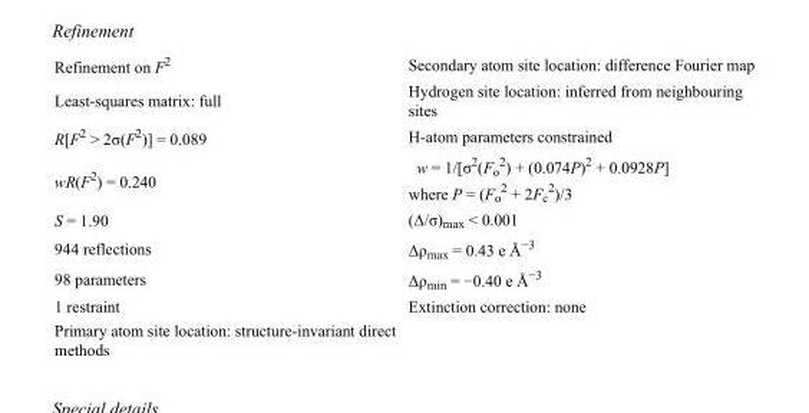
<table><tbody><tr><td>Refinement on F<sup>2</sup></td><td>Secondary atom site location: difference Fourier map</td></tr><tr><td>Least-squares matrix: full</td><td>Hydrogen site location: inferred from neighbouring sites</td></tr><tr><td>R[F<sup>2</sup> &gt; 2σ(F<sup>2</sup>)] = 0.089</td><td>H-atom parameters constrained</td></tr><tr><td>wR(F<sup>2</sup>) = 0.240</td><td>w = 1/[σ<sup>2</sup>(F<sub>o</sub> <sup>2</sup>) + (0.074P)<sup>2</sup> + 0.0928P] where P = (F<sub>o</sub> <sup>2</sup> + 2F<sub>c</sub> <sup>2</sup>)/3</td></tr><tr><td>S = 1.90</td><td>(Δ/σ)<sub>max</sub> &lt; 0.001</td></tr><tr><td>944 reflections</td><td>Δρ<sub>max</sub> = 0.43 e Å<sup>−3</sup></td></tr><tr><td>98 parameters</td><td>Δρ<sub>min</sub> = −0.40 e Å<sup>−3</sup></td></tr><tr><td>1 restraint</td><td>Extinction correction: none</td></tr><tr><td>Primary atom site location: structure-invariant direct methods</td><td></td></tr></tbody></table>